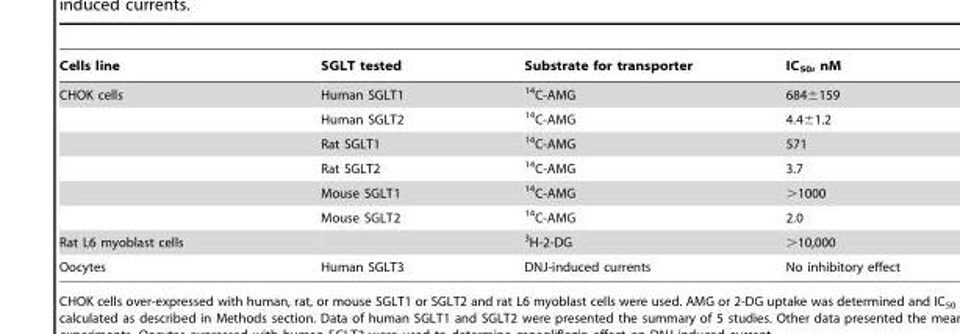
<table><thead><tr><td>Cells line</td><td>SGLT tested</td><td>Substrate for transporter</td><td>IC<sub>50</sub>, nM</td></tr></thead><tbody><tr><td rowspan="6">CHOK cells</td><td>Human SGLT1</td><td><sup>14</sup>C-AMG</td><td>684±159</td></tr><tr><td>Human SGLT2</td><td><sup>14</sup>C-AMG</td><td>4.4±1.2</td></tr><tr><td>Rat SGLT1</td><td><sup>14</sup>C-AMG</td><td>571</td></tr><tr><td>Rat SGLT2</td><td><sup>14</sup>C-AMG</td><td>3.7</td></tr><tr><td>Mouse SGLT1</td><td><sup>14</sup>C-AMG</td><td>&gt;1000</td></tr><tr><td>Mouse SGLT2</td><td><sup>14</sup>C-AMG</td><td>2.0</td></tr><tr><td>Rat L6 myoblast cells</td><td></td><td><sup>3</sup>H-2-DG</td><td>&gt;10,000</td></tr><tr><td>Oocytes</td><td>Human SGLT3</td><td>DNJ-induced currents</td><td>No inhibitory effect</td></tr></tbody></table>